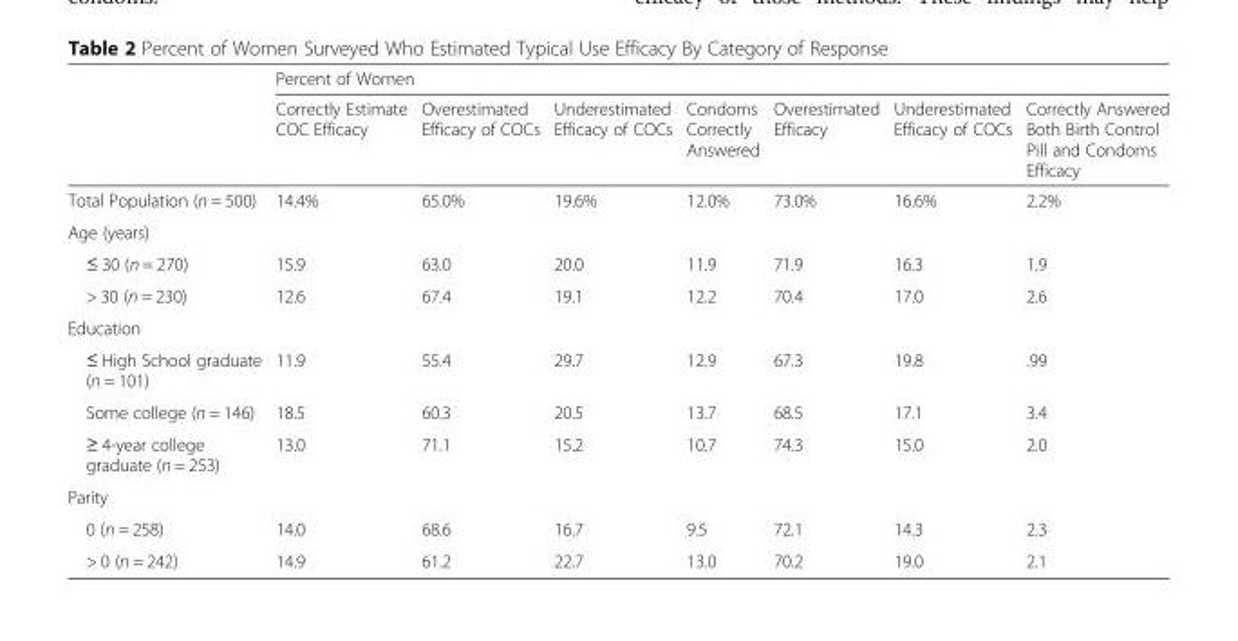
<table><thead><tr><td rowspan="2"></td><td colspan="7">Percent of Women</td></tr><tr><td>Correctly Estimate COC Efficacy</td><td>Overestimated Efficacy of COCs</td><td>Underestimated Efficacy of COCs</td><td>Condoms Correctly Answered</td><td>Overestimated Efficacy</td><td>Underestimated Efficacy of COCs</td><td>Correctly Answered Both Birth Control Pill and Condoms Efficacy</td></tr></thead><tbody><tr><td>Total Population (n = 500)</td><td>14.4%</td><td>65.0%</td><td>19.6%</td><td>12.0%</td><td>73.0%</td><td>16.6%</td><td>2.2%</td></tr><tr><td colspan="8">Age (years)</td></tr><tr><td>≤ 30 (n = 270)</td><td>15.9</td><td>63.0</td><td>20.0</td><td>11.9</td><td>71.9</td><td>16.3</td><td>1.9</td></tr><tr><td>&gt; 30 (n = 230)</td><td>12.6</td><td>67.4</td><td>19.1</td><td>12.2</td><td>70.4</td><td>17.0</td><td>2.6</td></tr><tr><td colspan="8">Education</td></tr><tr><td>≤ High School graduate (n = 101)</td><td>11.9</td><td>55.4</td><td>29.7</td><td>12.9</td><td>67.3</td><td>19.8</td><td>.99</td></tr><tr><td>Some college (n = 146)</td><td>18.5</td><td>60.3</td><td>20.5</td><td>13.7</td><td>68.5</td><td>17.1</td><td>3.4</td></tr><tr><td>≥ 4-year college graduate (n = 253)</td><td>13.0</td><td>71.1</td><td>15.2</td><td>10.7</td><td>74.3</td><td>15.0</td><td>2.0</td></tr><tr><td colspan="8">Parity</td></tr><tr><td>0 (n = 258)</td><td>14.0</td><td>68.6</td><td>16.7</td><td>9.5</td><td>72.1</td><td>14.3</td><td>2.3</td></tr><tr><td>&gt; 0 (n = 242)</td><td>14.9</td><td>61.2</td><td>22.7</td><td>13.0</td><td>70.2</td><td>19.0</td><td>2.1</td></tr></tbody></table>